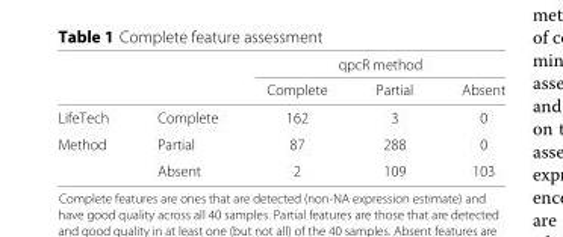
<table><thead><tr><td rowspan="2"></td><td rowspan="2"></td><td colspan="3">qpcR method</td></tr><tr><td>Complete</td><td>Partial</td><td>Absent</td></tr></thead><tbody><tr><td>LifeTech</td><td>Complete</td><td>162</td><td>3</td><td>0</td></tr><tr><td rowspan="2">Method</td><td>Partial</td><td>87</td><td>288</td><td>0</td></tr><tr><td>Absent</td><td>2</td><td>109</td><td>103</td></tr></tbody></table>